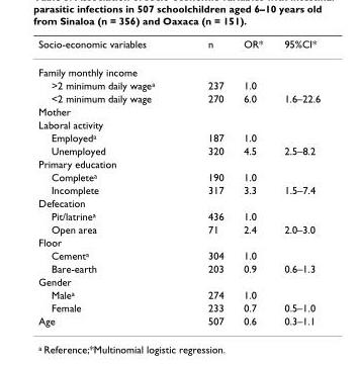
<table><thead><tr><td>Socio-economic variables</td><td>n</td><td>OR*</td><td>95%CI*</td></tr></thead><tbody><tr><td colspan="4">Family monthly income</td></tr><tr><td>&gt;2 minimum daily wagea</td><td>237</td><td>1.0</td><td></td></tr><tr><td>&lt;2 minimum daily wage</td><td>270</td><td>6.0</td><td>1.6–22.6</td></tr><tr><td colspan="4">Mother</td></tr><tr><td colspan="4">Laboral activity</td></tr><tr><td>Employeda</td><td>187</td><td>1.0</td><td></td></tr><tr><td>Unemployed</td><td>320</td><td>4.5</td><td>2.5–8.2</td></tr><tr><td colspan="4">Primary education</td></tr><tr><td>Completea</td><td>190</td><td>1.0</td><td></td></tr><tr><td>Incomplete</td><td>317</td><td>3.3</td><td>1.5–7.4</td></tr><tr><td colspan="4">Defecation</td></tr><tr><td>Pit/latrinea</td><td>436</td><td>1.0</td><td></td></tr><tr><td>Open area</td><td>71</td><td>2.4</td><td>2.0–3.0</td></tr><tr><td colspan="4">Floor</td></tr><tr><td>Cementa</td><td>304</td><td>1.0</td><td></td></tr><tr><td>Bare-earth</td><td>203</td><td>0.9</td><td>0.6–1.3</td></tr><tr><td colspan="4">Gender</td></tr><tr><td>Malea</td><td>274</td><td>1.0</td><td></td></tr><tr><td>Female</td><td>233</td><td>0.7</td><td>0.5–1.0</td></tr><tr><td>Age</td><td>507</td><td>0.6</td><td>0.3–1.1</td></tr></tbody></table>